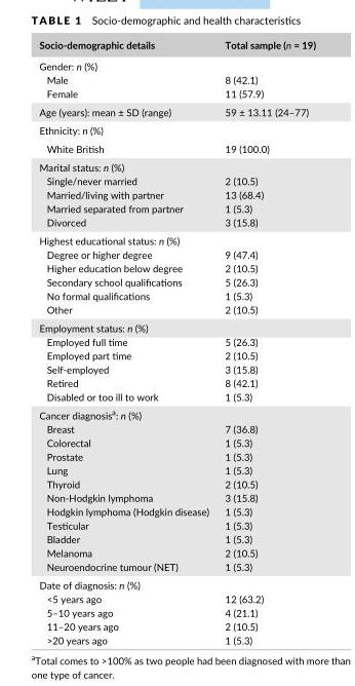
<table><thead><tr><td>Socio- demographic details</td><td>Total sample (n = 19)</td></tr></thead><tbody><tr><td colspan="2">Gender: n (%)</td></tr><tr><td>Male</td><td>8 (42.1)</td></tr><tr><td>Female</td><td>11 (57.9)</td></tr><tr><td>Age (years): mean ± SD (range)</td><td>59 ± 13.11 (24–77)</td></tr><tr><td colspan="2">Ethnicity: n (%)</td></tr><tr><td>White British</td><td>19 (100.0)</td></tr><tr><td colspan="2">Marital status: n (%)</td></tr><tr><td>Single/never married</td><td>2 (10.5)</td></tr><tr><td>Married/living with partner</td><td>13 (68.4)</td></tr><tr><td>Married separated from partner</td><td>1 (5.3)</td></tr><tr><td>Divorced</td><td>3 (15.8)</td></tr><tr><td colspan="2">Highest educational status: n (%)</td></tr><tr><td>Degree or higher degree</td><td>9 (47.4)</td></tr><tr><td>Higher education below degree</td><td>2 (10.5)</td></tr><tr><td>Secondary school qualifications</td><td>5 (26.3)</td></tr><tr><td>No formal qualifications</td><td>1 (5.3)</td></tr><tr><td>Other</td><td>2 (10.5)</td></tr><tr><td colspan="2">Employment status: n (%)</td></tr><tr><td>Employed full time</td><td>5 (26.3)</td></tr><tr><td>Employed part time</td><td>2 (10.5)</td></tr><tr><td>Self- employed</td><td>3 (15.8)</td></tr><tr><td>Retired</td><td>8 (42.1)</td></tr><tr><td>Disabled or too ill to work</td><td>1 (5.3)</td></tr><tr><td colspan="2">Cancer diagnosis<sup>a</sup>: n (%)</td></tr><tr><td>Breast</td><td>7 (36.8)</td></tr><tr><td>Colorectal</td><td>1 (5.3)</td></tr><tr><td>Prostate</td><td>1 (5.3)</td></tr><tr><td>Lung</td><td>1 (5.3)</td></tr><tr><td>Thyroid</td><td>2 (10.5)</td></tr><tr><td>Non- Hodgkin lymphoma</td><td>3 (15.8)</td></tr><tr><td>Hodgkin lymphoma (Hodgkin disease)</td><td>1 (5.3)</td></tr><tr><td>Testicular</td><td>1 (5.3)</td></tr><tr><td>Bladder</td><td>1 (5.3)</td></tr><tr><td>Melanoma</td><td>2 (10.5)</td></tr><tr><td>Neuroendocrine tumour (NET)</td><td>1 (5.3)</td></tr><tr><td colspan="2">Date of diagnosis: n (%)</td></tr><tr><td>&lt;5 years ago</td><td>12 (63.2)</td></tr><tr><td>5–10 years ago</td><td>4 (21.1)</td></tr><tr><td>11–20 years ago</td><td>2 (10.5)</td></tr><tr><td>&gt;20 years ago</td><td>1 (5.3)</td></tr></tbody></table>